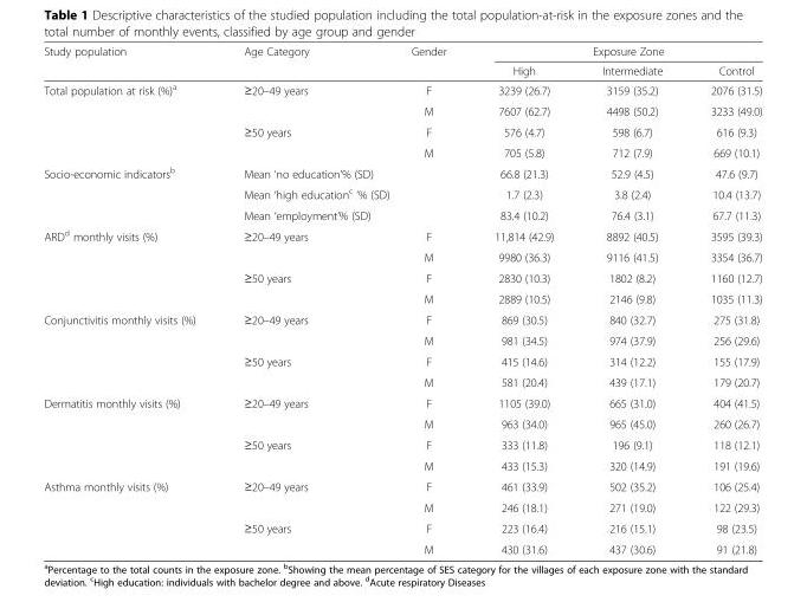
<table><thead><tr><td rowspan="2">Study population</td><td rowspan="2">Age Category</td><td rowspan="2">Gender</td><td colspan="3">Exposure Zone</td></tr><tr><td>High</td><td>Intermediate</td><td>Control</td></tr></thead><tbody><tr><td rowspan="4">Total population at risk (%)<sup>a</sup></td><td rowspan="2">≥20–49 years</td><td>F</td><td>3239 (26.7)</td><td>3159 (35.2)</td><td>2076 (31.5)</td></tr><tr><td>M</td><td>7607 (62.7)</td><td>4498 (50.2)</td><td>3233 (49.0)</td></tr><tr><td rowspan="2">≥50 years</td><td>F</td><td>576 (4.7)</td><td>598 (6.7)</td><td>616 (9.3)</td></tr><tr><td>M</td><td>705 (5.8)</td><td>712 (7.9)</td><td>669 (10.1)</td></tr><tr><td rowspan="3">Socio-economic indicators<sup>b</sup></td><td colspan="2">Mean ‘no education’% (SD)</td><td>66.8 (21.3)</td><td>52.9 (4.5)</td><td>47.6 (9.7)</td></tr><tr><td colspan="2">Mean ‘high education<sup>c</sup> ’% (SD)</td><td>1.7 (2.3)</td><td>3.8 (2.4)</td><td>10.4 (13.7)</td></tr><tr><td colspan="2">Mean ‘employment’% (SD)</td><td>83.4 (10.2)</td><td>76.4 (3.1)</td><td>67.7 (11.3)</td></tr><tr><td rowspan="4">ARD<sup>d</sup> monthly visits (%)</td><td rowspan="2">≥20–49 years</td><td>F</td><td>11,814 (42.9)</td><td>8892 (40.5)</td><td>3595 (39.3)</td></tr><tr><td>M</td><td>9980 (36.3)</td><td>9116 (41.5)</td><td>3354 (36.7)</td></tr><tr><td rowspan="2">≥50 years</td><td>F</td><td>2830 (10.3)</td><td>1802 (8.2)</td><td>1160 (12.7)</td></tr><tr><td>M</td><td>2889 (10.5)</td><td>2146 (9.8)</td><td>1035 (11.3)</td></tr><tr><td rowspan="4">Conjunctivitis monthly visits (%)</td><td rowspan="2">≥20–49 years</td><td>F</td><td>869 (30.5)</td><td>840 (32.7)</td><td>275 (31.8)</td></tr><tr><td>M</td><td>981 (34.5)</td><td>974 (37.9)</td><td>256 (29.6)</td></tr><tr><td rowspan="2">≥50 years</td><td>F</td><td>415 (14.6)</td><td>314 (12.2)</td><td>155 (17.9)</td></tr><tr><td>M</td><td>581 (20.4)</td><td>439 (17.1)</td><td>179 (20.7)</td></tr><tr><td rowspan="4">Dermatitis monthly visits (%)</td><td rowspan="2">≥20–49 years</td><td>F</td><td>1105 (39.0)</td><td>665 (31.0)</td><td>404 (41.5)</td></tr><tr><td>M</td><td>963 (34.0)</td><td>965 (45.0)</td><td>260 (26.7)</td></tr><tr><td rowspan="2">≥50 years</td><td>F</td><td>333 (11.8)</td><td>196 (9.1)</td><td>118 (12.1)</td></tr><tr><td>M</td><td>433 (15.3)</td><td>320 (14.9)</td><td>191 (19.6)</td></tr><tr><td rowspan="4">Asthma monthly visits (%)</td><td rowspan="2">≥20–49 years</td><td>F</td><td>461 (33.9)</td><td>502 (35.2)</td><td>106 (25.4)</td></tr><tr><td>M</td><td>246 (18.1)</td><td>271 (19.0)</td><td>122 (29.3)</td></tr><tr><td rowspan="2">≥50 years</td><td>F</td><td>223 (16.4)</td><td>216 (15.1)</td><td>98 (23.5)</td></tr><tr><td>M</td><td>430 (31.6)</td><td>437 (30.6)</td><td>91 (21.8)</td></tr></tbody></table>